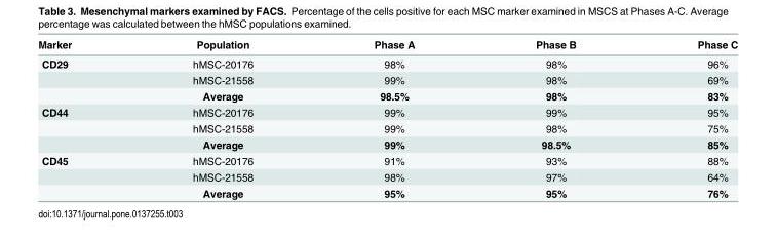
<table><thead><tr><td>Marker</td><td>Population</td><td>Phase A</td><td>Phase B</td><td>Phase C</td></tr></thead><tbody><tr><td rowspan="3">CD29</td><td>hMSC-20176</td><td>98%</td><td>98%</td><td>96%</td></tr><tr><td>hMSC-21558</td><td>99%</td><td>98%</td><td>69%</td></tr><tr><td>Average</td><td>98.5%</td><td>98%</td><td>83%</td></tr><tr><td rowspan="3">CD44</td><td>hMSC-20176</td><td>99%</td><td>99%</td><td>95%</td></tr><tr><td>hMSC-21558</td><td>99%</td><td>98%</td><td>75%</td></tr><tr><td>Average</td><td>99%</td><td>98.5%</td><td>85%</td></tr><tr><td rowspan="3">CD45</td><td>hMSC-20176</td><td>91%</td><td>93%</td><td>88%</td></tr><tr><td>hMSC-21558</td><td>98%</td><td>97%</td><td>64%</td></tr><tr><td>Average</td><td>95%</td><td>95%</td><td>76%</td></tr></tbody></table>